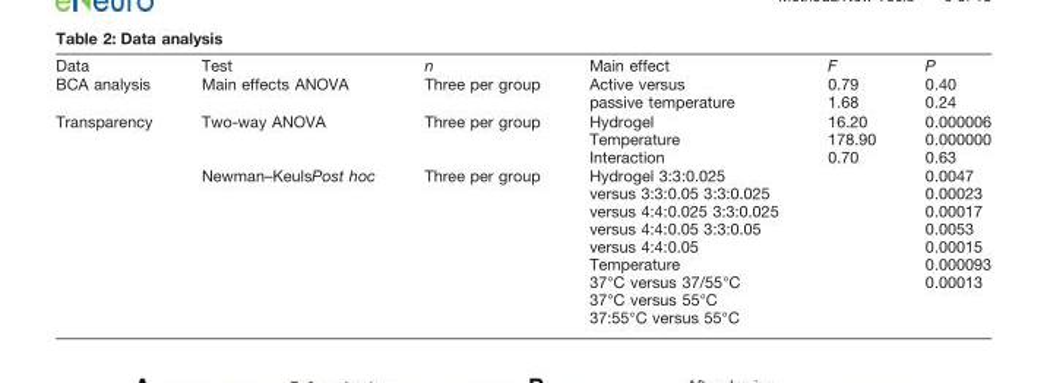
<table><thead><tr><td>Data</td><td>Test</td><td>n</td><td>Main effect</td><td>F</td><td>P</td></tr></thead><tbody><tr><td>BCA analysis</td><td>Main effects ANOVA</td><td>Three per group</td><td>Active versus passive temperature</td><td>0.79 1.68</td><td>0.40 0.24</td></tr><tr><td rowspan="2">Transparency</td><td>Two-way ANOVA</td><td>Three per group</td><td>Hydrogel Temperature Interaction</td><td>16.20 178.90 0.70</td><td>0.000006 0.000000 0.63</td></tr><tr><td>Newman–KeulsPost hoc</td><td>Three per group</td><td>Hydrogel 3:3:0.025 versus 3:3:0.05 3:3:0.025 versus 4:4:0.025 3:3:0.025 versus 4:4:0.05 3:3:0.05 versus 4:4:0.05 Temperature 37°C versus 37/55°C 37°C versus 55°C 37:55°C versus 55°C</td><td></td><td>0.0047 0.00023 0.00017 0.0053 0.00015 0.000093 0.00013</td></tr></tbody></table>